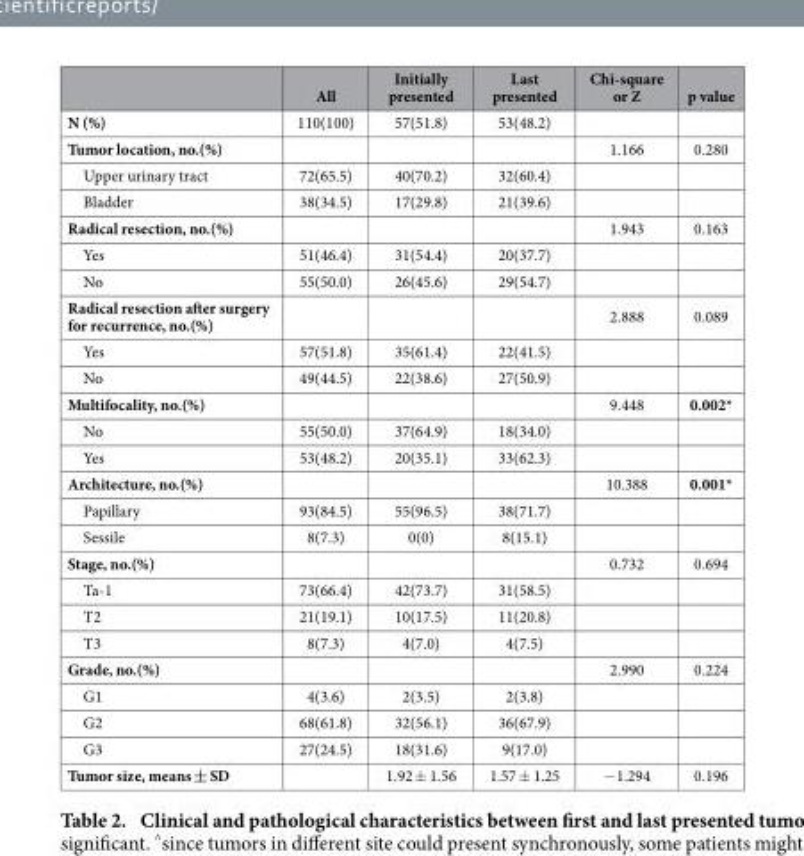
<table><thead><tr><td></td><td>All</td><td>Initially presented</td><td>Last presented</td><td>Chi-square or Z</td><td>p value</td></tr></thead><tbody><tr><td>N (%)</td><td>110(100)</td><td>57(51.8)</td><td>53(48.2)</td><td></td><td></td></tr><tr><td>Tumor location, no.(%)</td><td></td><td></td><td></td><td>1.166</td><td>0.280</td></tr><tr><td>Upper urinary tract</td><td>72(65.5)</td><td>40(70.2)</td><td>32(60.4)</td><td></td><td></td></tr><tr><td>Bladder</td><td>38(34.5)</td><td>17(29.8)</td><td>21(39.6)</td><td></td><td></td></tr><tr><td>Radical resection, no.(%)</td><td></td><td></td><td></td><td>1.943</td><td>0.163</td></tr><tr><td>Yes</td><td>51(46.4)</td><td>31(54.4)</td><td>20(37.7)</td><td></td><td></td></tr><tr><td>No</td><td>55(50.0)</td><td>26(45.6)</td><td>29(54.7)</td><td></td><td></td></tr><tr><td>Radical resection after surgery for recurrence, no.(%)</td><td></td><td></td><td></td><td>2.888</td><td>0.089</td></tr><tr><td>Yes</td><td>57(51.8)</td><td>35(61.4)</td><td>22(41.5)</td><td></td><td></td></tr><tr><td>No</td><td>49(44.5)</td><td>22(38.6)</td><td>27(50.9)</td><td></td><td></td></tr><tr><td>Multifocality, no.(%)</td><td></td><td></td><td></td><td>9.448</td><td>0.002*</td></tr><tr><td>No</td><td>55(50.0)</td><td>37(64.9)</td><td>18(34.0)</td><td></td><td></td></tr><tr><td>Yes</td><td>53(48.2)</td><td>20(35.1)</td><td>33(62.3)</td><td></td><td></td></tr><tr><td>Architecture, no.(%)</td><td></td><td></td><td></td><td>10.388</td><td>0.001*</td></tr><tr><td>Papillary</td><td>93(84.5)</td><td>55(96.5)</td><td>38(71.7)</td><td></td><td></td></tr><tr><td>Sessile</td><td>8(7.3)</td><td>0(0)</td><td>8(15.1)</td><td></td><td></td></tr><tr><td>Stage, no.(%)</td><td></td><td></td><td></td><td>0.732</td><td>0.694</td></tr><tr><td>Ta-1</td><td>73(66.4)</td><td>42(73.7)</td><td>31(58.5)</td><td></td><td></td></tr><tr><td>T2</td><td>21(19.1)</td><td>10(17.5)</td><td>11(20.8)</td><td></td><td></td></tr><tr><td>T3</td><td>8(7.3)</td><td>4(7.0)</td><td>4(7.5)</td><td></td><td></td></tr><tr><td>Grade, no.(%)</td><td></td><td></td><td></td><td>2.990</td><td>0.224</td></tr><tr><td>G1</td><td>4(3.6)</td><td>2(3.5)</td><td>2(3.8)</td><td></td><td></td></tr><tr><td>G2</td><td>68(61.8)</td><td>32(56.1)</td><td>36(67.9)</td><td></td><td></td></tr><tr><td>G3</td><td>27(24.5)</td><td>18(31.6)</td><td>9(17.0)</td><td></td><td></td></tr><tr><td>Tumor size, means ± SD</td><td></td><td>1.92 ± 1.56</td><td>1.57 ± 1.25</td><td>− 1.294</td><td>0.196</td></tr></tbody></table>